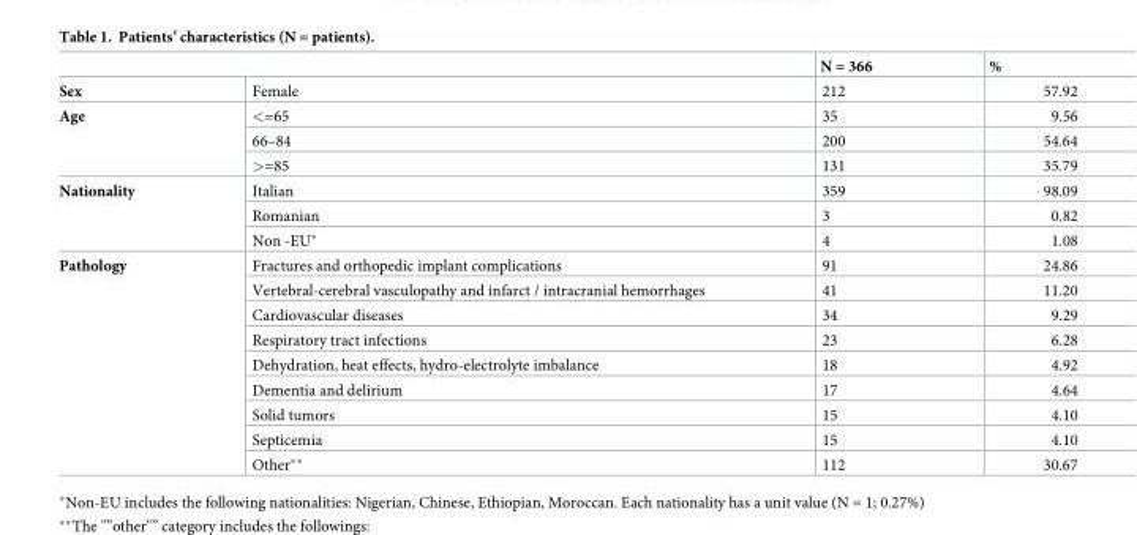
<table><thead><tr><td></td><td></td><td>N = 366</td><td>%</td></tr></thead><tbody><tr><td>Sex</td><td>Female</td><td>212</td><td>57.92</td></tr><tr><td rowspan="3">Age</td><td>&lt;=65</td><td>35</td><td>9.56</td></tr><tr><td>66–84</td><td>200</td><td>54.64</td></tr><tr><td>&gt;=85</td><td>131</td><td>35.79</td></tr><tr><td rowspan="3">Nationality</td><td>Italian</td><td>359</td><td>98.09</td></tr><tr><td>Romanian</td><td>3</td><td>0.82</td></tr><tr><td>Non -EU*</td><td>4</td><td>1.08</td></tr><tr><td rowspan="9">Pathology</td><td>Fractures and orthopedic implant complications</td><td>91</td><td>24.86</td></tr><tr><td>Vertebral-cerebral vasculopathy and infarct / intracranial hemorrhages</td><td>41</td><td>11.20</td></tr><tr><td>Cardiovascular diseases</td><td>34</td><td>9.29</td></tr><tr><td>Respiratory tract infections</td><td>23</td><td>6.28</td></tr><tr><td>Dehydration, heat effects, hydro-electrolyte imbalance</td><td>18</td><td>4.92</td></tr><tr><td>Dementia and delirium</td><td>17</td><td>4.64</td></tr><tr><td>Solid tumors</td><td>15</td><td>4.10</td></tr><tr><td>Septicemia</td><td>15</td><td>4.10</td></tr><tr><td>Other**</td><td>112</td><td>30.67</td></tr></tbody></table>